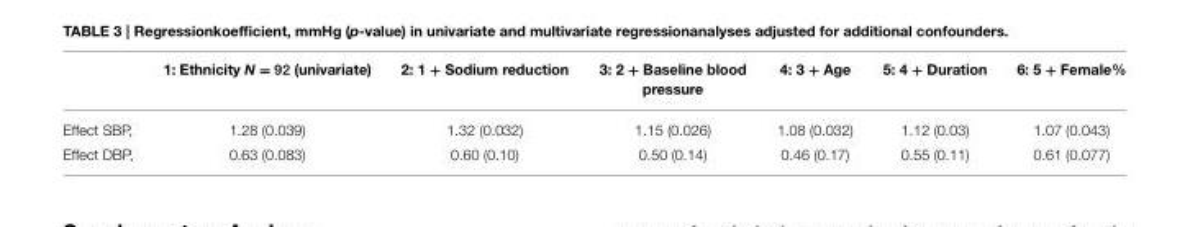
<table><thead><tr><td></td><td>1: Ethnicity N = 92 (univariate)</td><td>2: 1 + Sodium reduction</td><td>3: 2 + Baseline blood pressure</td><td>4: 3 + Age</td><td>5: 4 + Duration</td><td>6: 5 + Female%</td></tr></thead><tbody><tr><td>Effect SBP,</td><td>1.28 (0.039)</td><td>1.32 (0.032)</td><td>1.15 (0.026)</td><td>1.08 (0.032)</td><td>1.12 (0.03)</td><td>1.07 (0.043)</td></tr><tr><td>Effect DBP,</td><td>0.63 (0.083)</td><td>0.60 (0.10)</td><td>0.50 (0.14)</td><td>0.46 (0.17)</td><td>0.55 (0.11)</td><td>0.61 (0.077)</td></tr></tbody></table>